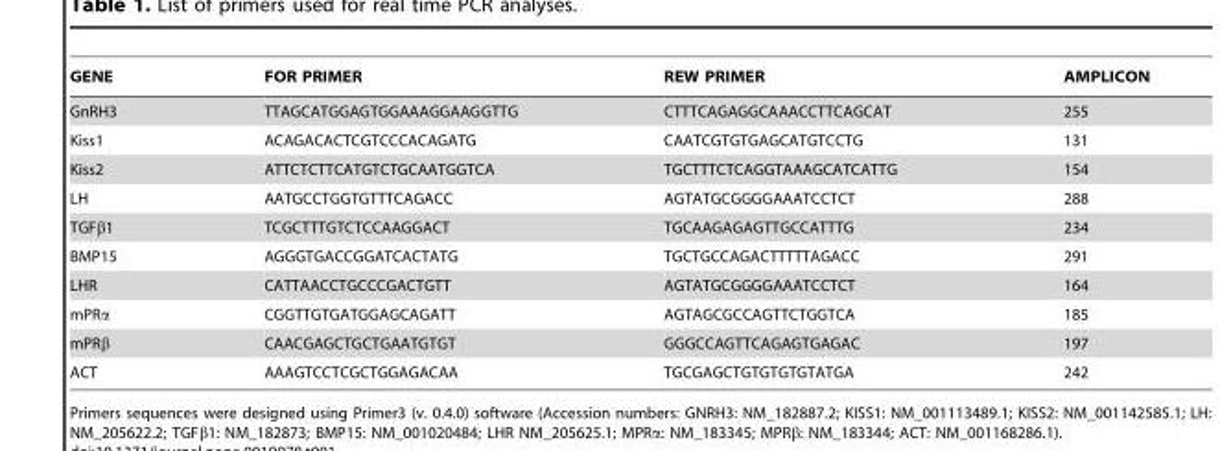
<table><thead><tr><td>GENE</td><td>FOR PRIMER</td><td>REW PRIMER</td><td>AMPLICON</td></tr></thead><tbody><tr><td>GnRH3</td><td>TTAGCATGGAGTGGAAAGGAAGGTTG</td><td>CTTTCAGAGGCAAACCTTCAGCAT</td><td>255</td></tr><tr><td>Kiss1</td><td>ACAGACACTCGTCCCACAGATG</td><td>CAATCGTGTGAGCATGTCCTG</td><td>131</td></tr><tr><td>Kiss2</td><td>ATTCTCTTCATGTCTGCAATGGTCA</td><td>TGCTTTCTCAGGTAAAGCATCATTG</td><td>154</td></tr><tr><td>LH</td><td>AATGCCTGGTGTTTCAGACC</td><td>AGTATGCGGGGAAATCCTCT</td><td>288</td></tr><tr><td>TGFβ1</td><td>TCGCTTTGTCTCCAAGGACT</td><td>TGCAAGAGAGTTGCCATTTG</td><td>234</td></tr><tr><td>BMP15</td><td>AGGGTGACCGGATCACTATG</td><td>TGCTGCCAGACTTTTTAGACC</td><td>291</td></tr><tr><td>LHR</td><td>CATTAACCTGCCCGACTGTT</td><td>AGTATGCGGGGAAATCCTCT</td><td>164</td></tr><tr><td>mPRα</td><td>CGGTTGTGATGGAGCAGATT</td><td>AGTAGCGCCAGTTCTGGTCA</td><td>185</td></tr><tr><td>mPRβ</td><td>CAACGAGCTGCTGAATGTGT</td><td>GGGCCAGTTCAGAGTGAGAC</td><td>197</td></tr><tr><td>ACT</td><td>AAAGTCCTCGCTGGAGACAA</td><td>TGCGAGCTGTGTGTGTATGA</td><td>242</td></tr></tbody></table>